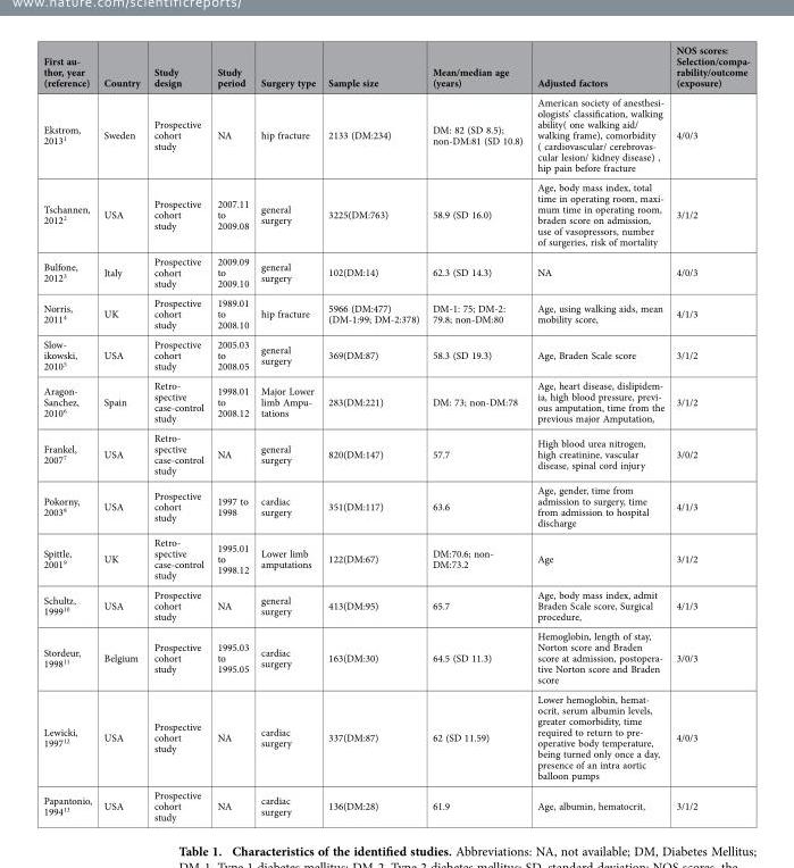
<table><thead><tr><td>First au- thor, year (reference)</td><td>Country</td><td>Study design</td><td>Study period</td><td>Surgery type</td><td>Sample size</td><td>Mean/median age (years)</td><td>Adjusted factors</td><td>NOS scores: Selection/compa- rability/outcome (exposure)</td></tr></thead><tbody><tr><td>Ekstrom, 2013<sup>1</sup></td><td>Sweden</td><td>Prospective cohort study</td><td>NA</td><td>hip fracture</td><td>2133 (DM:234)</td><td>DM: 82 (SD 8.5); non-DM:81 (SD 10.8)</td><td>American society of anesthesi- ologists’ classification, walking ability( one walking aid/ walking frame), comorbidity ( cardiovascular/ cerebrovas- cular lesion/ kidney disease) , hip pain before fracture</td><td>4/0/3</td></tr><tr><td>Tschannen, 2012<sup>2</sup></td><td>USA</td><td>Prospective cohort study</td><td>2007.11 to 2009.08</td><td>general surgery</td><td>3225(DM:763)</td><td>58.9 (SD 16.0)</td><td>Age, body mass index, total time in operating room, maxi- mum time in operating room, braden score on admission, use of vasopressors, number of surgeries, risk of mortality</td><td>3/1/2</td></tr><tr><td>Bulfone, 2012<sup>3</sup></td><td>Italy</td><td>Prospective cohort study</td><td>2009.09 to 2009.10</td><td>general surgery</td><td>102(DM:14)</td><td>62.3 (SD 14.3)</td><td>NA</td><td>4/0/3</td></tr><tr><td>Norris, 2011<sup>4</sup></td><td>UK</td><td>Prospective cohort study</td><td>1989.01 to 2008.10</td><td>hip fracture</td><td>5966 (DM:477) (DM-1:99; DM-2:378)</td><td>DM-1: 75; DM-2: 79.8; non-DM:80</td><td>Age, using walking aids, mean mobility score,</td><td>4/1/3</td></tr><tr><td>Slow- ikowski, 20105</td><td>USA</td><td>Prospective cohort study</td><td>2005.03 to 2008.05</td><td>general surgery</td><td>369(DM:87)</td><td>58.3 (SD 19.3)</td><td>Age, Braden Scale score</td><td>3/1/2</td></tr><tr><td>Aragon- Sanchez, 2010<sup>6</sup></td><td>Spain</td><td>Retro- spective case-control study</td><td>1998.01 to 2008.12</td><td>Major Lower limb Ampu- tations</td><td>283(DM:221)</td><td>DM: 73; non-DM:78</td><td>Age, heart disease, dislipidem- ia, high blood pressure, previ- ous amputation, time from the previous major Amputation,</td><td>3/1/2</td></tr><tr><td>Frankel, 2007<sup>7</sup></td><td>USA</td><td>Retro- spective case-control study</td><td>NA</td><td>general surgery</td><td>820(DM:147)</td><td>57.7</td><td>High blood urea nitrogen, high creatinine, vascular disease, spinal cord injury</td><td>3/0/2</td></tr><tr><td>Pokorny, 2003<sup>8</sup></td><td>USA</td><td>Prospective cohort study</td><td>1997 to 1998</td><td>cardiac surgery</td><td>351(DM:117)</td><td>63.6</td><td>Age, gender, time from admission to surgery, time from admission to hospital discharge</td><td>4/1/3</td></tr><tr><td>Spittle, 2001<sup>9</sup></td><td>UK</td><td>Retro- spective case-control study</td><td>1995.01 to 1998.12</td><td>Lower limb amputations</td><td>122(DM:67)</td><td>DM:70.6; non- DM:73.2</td><td>Age</td><td>3/1/2</td></tr><tr><td>Schultz, 1999<sup>10</sup></td><td>USA</td><td>Prospective cohort study</td><td>NA</td><td>general surgery</td><td>413(DM:95)</td><td>65.7</td><td>Age, body mass index, admit Braden Scale score, Surgical procedure,</td><td>4/1/3</td></tr><tr><td>Stordeur, 1998<sup>11</sup></td><td>Belgium</td><td>Prospective cohort study</td><td>1995.03 to 1995.05</td><td>cardiac surgery</td><td>163(DM:30)</td><td>64.5 (SD 11.3)</td><td>Hemoglobin, length of stay, Norton score and Braden score at admission, postopera- tive Norton score and Braden score</td><td>3/0/3</td></tr><tr><td>Lewicki, 1997<sup>12</sup></td><td>USA</td><td>Prospective cohort study</td><td>NA</td><td>cardiac surgery</td><td>337(DM:87)</td><td>62 (SD 11.59)</td><td>Lower hemoglobin, hemat- ocrit, serum albumin levels, greater comorbidity, time required to return to pre- operative body temperature, being turned only once a day, presence of an intra aortic balloon pumps</td><td>4/0/3</td></tr><tr><td>Papantonio, 1994<sup>13</sup></td><td>USA</td><td>Prospective cohort study</td><td>NA</td><td>cardiac surgery</td><td>136(DM:28)</td><td>61.9</td><td>Age, albumin, hematocrit,</td><td>3/1/2</td></tr></tbody></table>